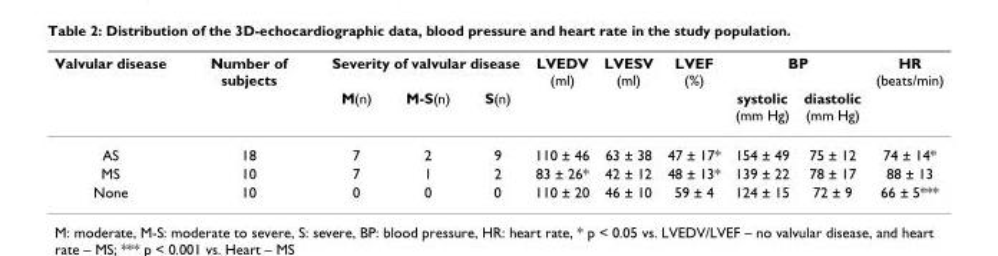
<table><thead><tr><td rowspan="2">Valvular disease</td><td rowspan="2">Number of subjects</td><td colspan="3">Severity of valvular disease</td><td rowspan="2">LVEDV (ml)</td><td rowspan="2">LVESV (ml)</td><td rowspan="2">LVEF (%)</td><td colspan="2">BP</td><td rowspan="2">HR (beats/min)</td></tr><tr><td>M(n)</td><td>M-S(n)</td><td>S(n)</td><td>systolic (mm Hg)</td><td>diastolic (mm Hg)</td></tr></thead><tbody><tr><td>AS</td><td>18</td><td>7</td><td>2</td><td>9</td><td>110 ± 46</td><td>63 ± 38</td><td>47 ± 17*</td><td>154 ± 49</td><td>75 ± 12</td><td>74 ± 14*</td></tr><tr><td>MS</td><td>10</td><td>7</td><td>1</td><td>2</td><td>83 ± 26*</td><td>42 ± 12</td><td>48 ± 13*</td><td>139 ± 22</td><td>78 ± 17</td><td>88 ± 13</td></tr><tr><td>None</td><td>10</td><td>0</td><td>0</td><td>0</td><td>110 ± 20</td><td>46 ± 10</td><td>59 ± 4</td><td>124 ± 15</td><td>72 ± 9</td><td>66 ± 5***</td></tr></tbody></table>